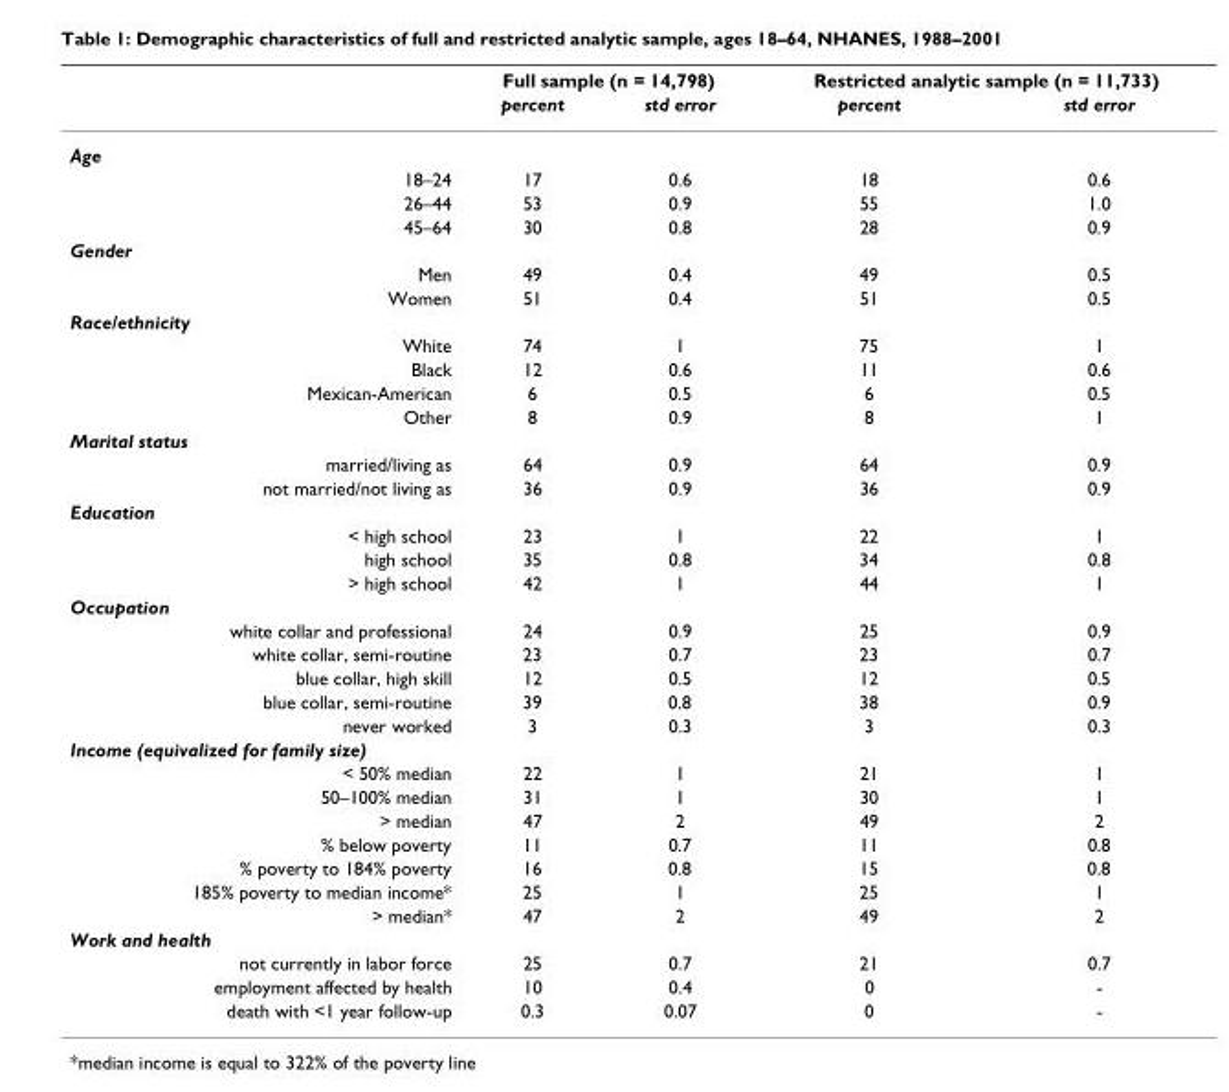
<table><thead><tr><td rowspan="2"></td><td colspan="2">Full sample (n = 14,798)</td><td colspan="2">Restricted analytic sample (n = 11,733)</td></tr><tr><td>percent</td><td>std error</td><td>percent</td><td>std error</td></tr></thead><tbody><tr><td colspan="5">Age</td></tr><tr><td>18–24</td><td>17</td><td>0.6</td><td>18</td><td>0.6</td></tr><tr><td>26–44</td><td>53</td><td>0.9</td><td>55</td><td>1.0</td></tr><tr><td>45–64</td><td>30</td><td>0.8</td><td>28</td><td>0.9</td></tr><tr><td colspan="5">Gender</td></tr><tr><td>Men</td><td>49</td><td>0.4</td><td>49</td><td>0.5</td></tr><tr><td>Women</td><td>51</td><td>0.4</td><td>51</td><td>0.5</td></tr><tr><td colspan="5">Race/ethnicity</td></tr><tr><td>White</td><td>74</td><td>1</td><td>75</td><td>1</td></tr><tr><td>Black</td><td>12</td><td>0.6</td><td>11</td><td>0.6</td></tr><tr><td>Mexican-American</td><td>6</td><td>0.5</td><td>6</td><td>0.5</td></tr><tr><td>Other</td><td>8</td><td>0.9</td><td>8</td><td>1</td></tr><tr><td colspan="5">Marital status</td></tr><tr><td>married/living as</td><td>64</td><td>0.9</td><td>64</td><td>0.9</td></tr><tr><td>not married/not living as</td><td>36</td><td>0.9</td><td>36</td><td>0.9</td></tr><tr><td colspan="5">Education</td></tr><tr><td>&lt; high school</td><td>23</td><td>1</td><td>22</td><td>1</td></tr><tr><td>high school</td><td>35</td><td>0.8</td><td>34</td><td>0.8</td></tr><tr><td>&gt; high school</td><td>42</td><td>1</td><td>44</td><td>1</td></tr><tr><td colspan="5">Occupation</td></tr><tr><td>white collar and professional</td><td>24</td><td>0.9</td><td>25</td><td>0.9</td></tr><tr><td>white collar, semi-routine</td><td>23</td><td>0.7</td><td>23</td><td>0.7</td></tr><tr><td>blue collar, high skill</td><td>12</td><td>0.5</td><td>12</td><td>0.5</td></tr><tr><td>blue collar, semi-routine</td><td>39</td><td>0.8</td><td>38</td><td>0.9</td></tr><tr><td>never worked</td><td>3</td><td>0.3</td><td>3</td><td>0.3</td></tr><tr><td colspan="5">Income (equivalized for family size)</td></tr><tr><td>&lt; 50% median</td><td>22</td><td>1</td><td>21</td><td>1</td></tr><tr><td>50–100% median</td><td>31</td><td>1</td><td>30</td><td>1</td></tr><tr><td>&gt; median</td><td>47</td><td>2</td><td>49</td><td>2</td></tr><tr><td>% below poverty</td><td>11</td><td>0.7</td><td>11</td><td>0.8</td></tr><tr><td>% poverty to 184% poverty</td><td>16</td><td>0.8</td><td>15</td><td>0.8</td></tr><tr><td>185% poverty to median income*</td><td>25</td><td>1</td><td>25</td><td>1</td></tr><tr><td>&gt; median*</td><td>47</td><td>2</td><td>49</td><td>2</td></tr><tr><td colspan="5">Work and health</td></tr><tr><td>not currently in labor force</td><td>25</td><td>0.7</td><td>21</td><td>0.7</td></tr><tr><td>employment affected by health</td><td>10</td><td>0.4</td><td>0</td><td>-</td></tr><tr><td>death with &lt;1 year follow-up</td><td>0.3</td><td>0.07</td><td>0</td><td>-</td></tr></tbody></table>